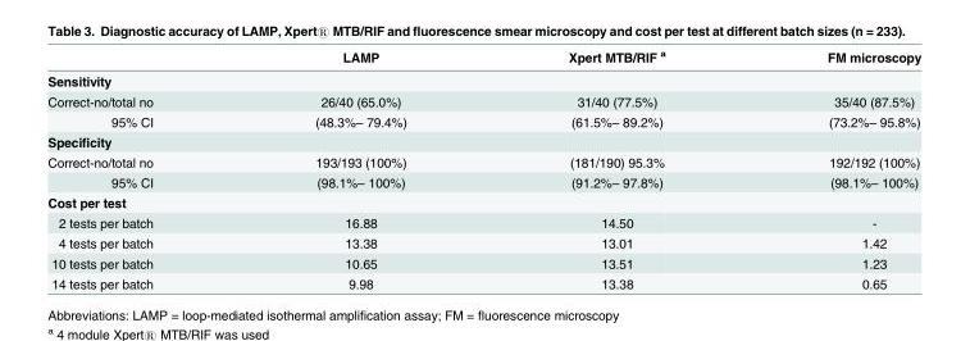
<table><thead><tr><td></td><td>LAMP</td><td>Xpert MTB/RIF <sup>a</sup></td><td>FM microscopy</td></tr></thead><tbody><tr><td colspan="4">Sensitivity</td></tr><tr><td>Correct-no/total no</td><td>26/40 (65.0%)</td><td>31/40 (77.5%)</td><td>35/40 (87.5%)</td></tr><tr><td>95% CI</td><td>(48.3%– 79.4%)</td><td>(61.5%– 89.2%)</td><td>(73.2%– 95.8%)</td></tr><tr><td colspan="4">Specificity</td></tr><tr><td>Correct-no/total no</td><td>193/193 (100%)</td><td>(181/190) 95.3%</td><td>192/192 (100%)</td></tr><tr><td>95% CI</td><td>(98.1%– 100%)</td><td>(91.2%– 97.8%)</td><td>(98.1%– 100%)</td></tr><tr><td colspan="4">Cost per test</td></tr><tr><td>2 tests per batch</td><td>16.88</td><td>14.50</td><td>-</td></tr><tr><td>4 tests per batch</td><td>13.38</td><td>13.01</td><td>1.42</td></tr><tr><td>10 tests per batch</td><td>10.65</td><td>13.51</td><td>1.23</td></tr><tr><td>14 tests per batch</td><td>9.98</td><td>13.38</td><td>0.65</td></tr></tbody></table>